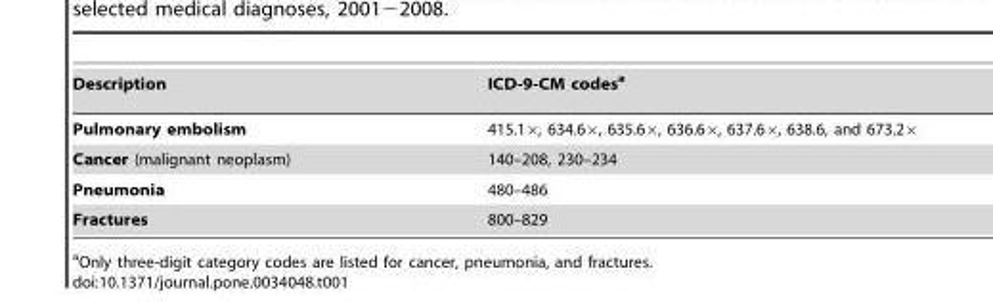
<table><tbody><tr><td>Description</td><td>ICD-9-CM codesa</td></tr><tr><td>Pulmonary embolism</td><td>415.1×, 634.6×, 635.6×, 636.6×, 637.6×, 638.6, and 673.2×</td></tr><tr><td>Cancer (malignant neoplasm)</td><td>140–208, 230–234</td></tr><tr><td>Pneumonia</td><td>480–486</td></tr><tr><td>Fractures</td><td>800–829</td></tr></tbody></table>